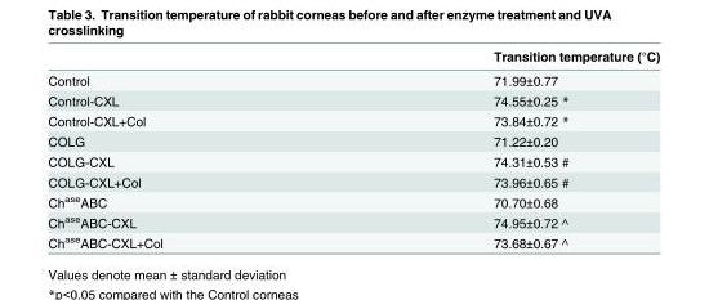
<table><thead><tr><td></td><td>Transition temperature (°C)</td></tr></thead><tbody><tr><td>Control</td><td>71.99±0.77</td></tr><tr><td>Control-CXL</td><td>74.55±0.25 *</td></tr><tr><td>Control-CXL+Col</td><td>73.84±0.72 *</td></tr><tr><td>COLG</td><td>71.22±0.20</td></tr><tr><td>COLG-CXL</td><td>74.31±0.53 #</td></tr><tr><td>COLG-CXL+Col</td><td>73.96±0.65 #</td></tr><tr><td>Ch<sup>ase</sup>ABC</td><td>70.70±0.68</td></tr><tr><td>Ch<sup>ase</sup>ABC-CXL</td><td>74.95±0.72 ^</td></tr><tr><td>Ch<sup>ase</sup>ABC-CXL+Col</td><td>73.68±0.67 ^</td></tr></tbody></table>